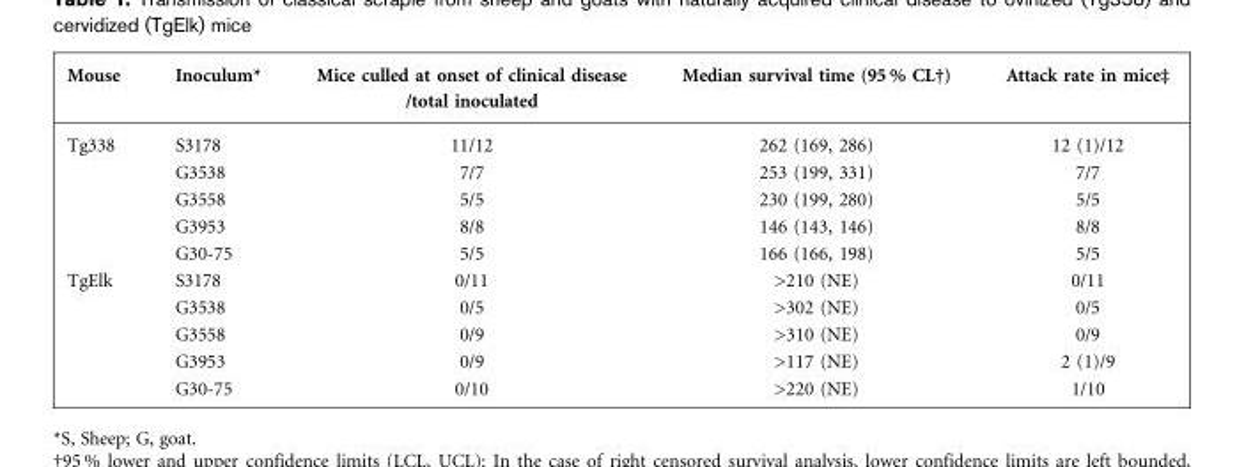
<table><thead><tr><td>Mouse</td><td>Inoculum*</td><td>Mice culled at onset of clinical disease /total inoculated</td><td>Median survival time (95 % CL†)</td><td>Attack rate in mice‡</td></tr></thead><tbody><tr><td rowspan="5">Tg338</td><td>S3178</td><td>11/12</td><td>262 (169, 286)</td><td>12 (1)/12</td></tr><tr><td>G3538</td><td>7/7</td><td>253 (199, 331)</td><td>7/7</td></tr><tr><td>G3558</td><td>5/5</td><td>230 (199, 280)</td><td>5/5</td></tr><tr><td>G3953</td><td>8/8</td><td>146 (143, 146)</td><td>8/8</td></tr><tr><td>G30-75</td><td>5/5</td><td>166 (166, 198)</td><td>5/5</td></tr><tr><td rowspan="5">TgElk</td><td>S3178</td><td>0/11</td><td>&gt;210 (NE)</td><td>0/11</td></tr><tr><td>G3538</td><td>0/5</td><td>&gt;302 (NE)</td><td>0/5</td></tr><tr><td>G3558</td><td>0/9</td><td>&gt;310 (NE)</td><td>0/9</td></tr><tr><td>G3953</td><td>0/9</td><td>&gt;117 (NE)</td><td>2 (1)/9</td></tr><tr><td>G30-75</td><td>0/10</td><td>&gt;220 (NE)</td><td>1/10</td></tr></tbody></table>